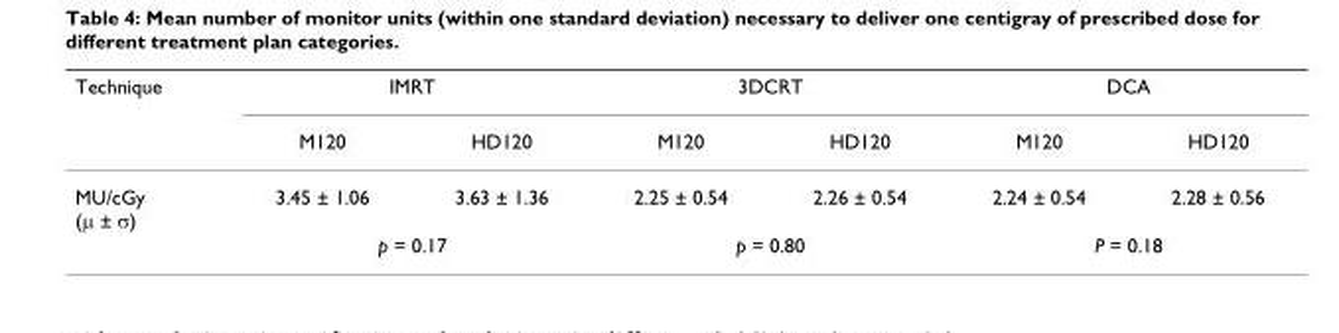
<table><thead><tr><td rowspan="2">Technique</td><td colspan="2">IMRT</td><td colspan="2">3DCRT</td><td colspan="2">DCA</td></tr><tr><td>M120</td><td>HD120</td><td>M120</td><td>HD120</td><td>M120</td><td>HD120</td></tr></thead><tbody><tr><td rowspan="2">MU/cGy (μ ± σ)</td><td>3.45 ± 1.06</td><td>3.63 ± 1.36</td><td>2.25 ± 0.54</td><td>2.26 ± 0.54</td><td>2.24 ± 0.54</td><td>2.28 ± 0.56</td></tr><tr><td colspan="2">p = 0.17</td><td colspan="2">p = 0.80</td><td colspan="2">P = 0.18</td></tr></tbody></table>